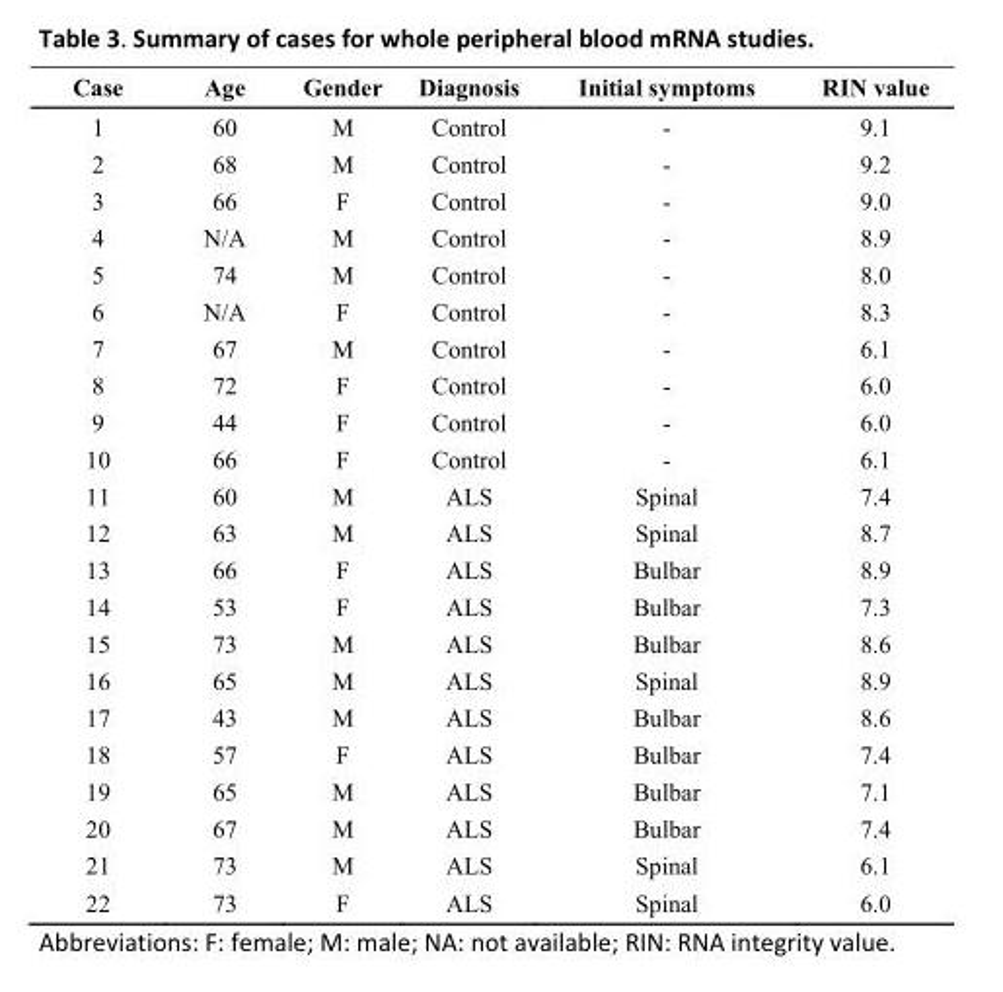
<table><tbody><tr><td>Case</td><td>Age</td><td>Gender</td><td>Diagnosis</td><td>Initial symptoms</td><td>RIN value</td></tr><tr><td>1</td><td>60</td><td>M</td><td>Control</td><td>-</td><td>9.1</td></tr><tr><td>2</td><td>68</td><td>M</td><td>Control</td><td>-</td><td>9.2</td></tr><tr><td>3</td><td>66</td><td>F</td><td>Control</td><td>-</td><td>9.0</td></tr><tr><td>4</td><td>N/A</td><td>M</td><td>Control</td><td>-</td><td>8.9</td></tr><tr><td>5</td><td>74</td><td>M</td><td>Control</td><td>-</td><td>8.0</td></tr><tr><td>6</td><td>N/A</td><td>F</td><td>Control</td><td>-</td><td>8.3</td></tr><tr><td>7</td><td>67</td><td>M</td><td>Control</td><td>-</td><td>6.1</td></tr><tr><td>8</td><td>72</td><td>F</td><td>Control</td><td>-</td><td>6.0</td></tr><tr><td>9</td><td>44</td><td>F</td><td>Control</td><td>-</td><td>6.0</td></tr><tr><td>10</td><td>66</td><td>F</td><td>Control</td><td>-</td><td>6.1</td></tr><tr><td>11</td><td>60</td><td>M</td><td>ALS</td><td>Spinal</td><td>7.4</td></tr><tr><td>12</td><td>63</td><td>M</td><td>ALS</td><td>Spinal</td><td>8.7</td></tr><tr><td>13</td><td>66</td><td>F</td><td>ALS</td><td>Bulbar</td><td>8.9</td></tr><tr><td>14</td><td>53</td><td>F</td><td>ALS</td><td>Bulbar</td><td>7.3</td></tr><tr><td>15</td><td>73</td><td>M</td><td>ALS</td><td>Bulbar</td><td>8.6</td></tr><tr><td>16</td><td>65</td><td>M</td><td>ALS</td><td>Spinal</td><td>8.9</td></tr><tr><td>17</td><td>43</td><td>M</td><td>ALS</td><td>Bulbar</td><td>8.6</td></tr><tr><td>18</td><td>57</td><td>F</td><td>ALS</td><td>Bulbar</td><td>7.4</td></tr><tr><td>19</td><td>65</td><td>M</td><td>ALS</td><td>Bulbar</td><td>7.1</td></tr><tr><td>20</td><td>67</td><td>M</td><td>ALS</td><td>Bulbar</td><td>7.4</td></tr><tr><td>21</td><td>73</td><td>M</td><td>ALS</td><td>Spinal</td><td>6.1</td></tr><tr><td>22</td><td>73</td><td>F</td><td>ALS</td><td>Spinal</td><td>6.0</td></tr></tbody></table>